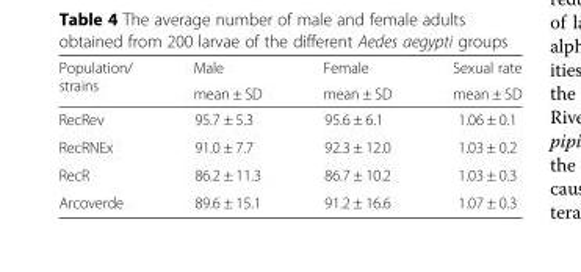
<table><thead><tr><td rowspan="2">Population/ strains</td><td rowspan="2">Male mean ± SD</td><td rowspan="2">Female mean ± SD</td><td rowspan="2">Sexual rate mean ± SD</td></tr><tr></tr></thead><tbody><tr><td>RecRev</td><td>95.7 ± 5.3</td><td>95.6 ± 6.1</td><td>1.06 ± 0.1</td></tr><tr><td>RecRNEx</td><td>91.0 ± 7.7</td><td>92.3 ± 12.0</td><td>1.03 ± 0.2</td></tr><tr><td>RecR</td><td>86.2 ± 11.3</td><td>86.7 ± 10.2</td><td>1.03 ± 0.3</td></tr><tr><td>Arcoverde</td><td>89.6 ± 15.1</td><td>91.2 ± 16.6</td><td>1.07 ± 0.3</td></tr></tbody></table>